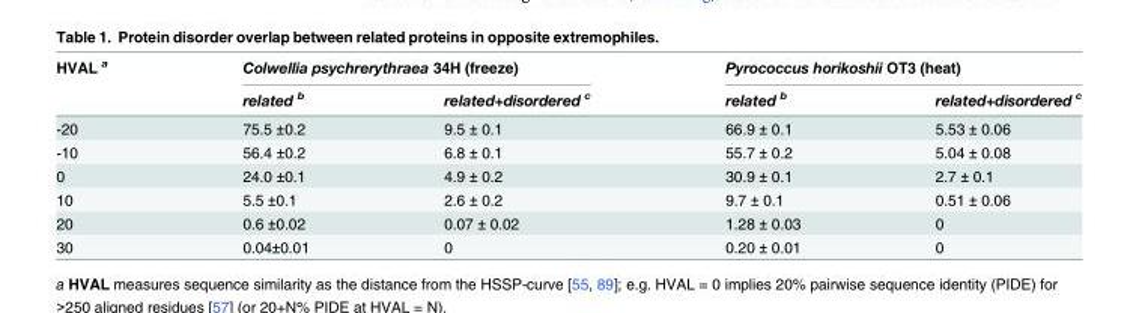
<table><thead><tr><td rowspan="2">HVAL <sup>a</sup></td><td colspan="2">Colwellia psychrerythraea 34H (freeze)</td><td colspan="2">Pyrococcus horikoshii OT3 (heat)</td></tr><tr><td>related <sup>b</sup></td><td>related+disordered <sup>c</sup></td><td>related <sup>b</sup></td><td>related+disordered <sup>c</sup></td></tr></thead><tbody><tr><td>-20</td><td>75.5 ±0.2</td><td>9.5 ± 0.1</td><td>66.9 ± 0.1</td><td>5.53 ± 0.06</td></tr><tr><td>-10</td><td>56.4 ±0.2</td><td>6.8 ± 0.1</td><td>55.7 ± 0.2</td><td>5.04 ± 0.08</td></tr><tr><td>0</td><td>24.0 ±0.1</td><td>4.9 ± 0.2</td><td>30.9 ± 0.1</td><td>2.7 ± 0.1</td></tr><tr><td>10</td><td>5.5 ±0.1</td><td>2.6 ± 0.2</td><td>9.7 ± 0.1</td><td>0.51 ± 0.06</td></tr><tr><td>20</td><td>0.6 ±0.02</td><td>0.07 ± 0.02</td><td>1.28 ± 0.03</td><td>0</td></tr><tr><td>30</td><td>0.04±0.01</td><td>0</td><td>0.20 ± 0.01</td><td>0</td></tr></tbody></table>